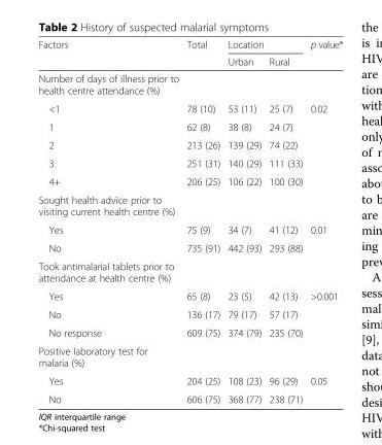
<table><thead><tr><td rowspan="2">Factors</td><td rowspan="2">Total</td><td colspan="2">Location</td><td rowspan="2">p value*</td></tr><tr><td>Urban</td><td>Rural</td></tr></thead><tbody><tr><td colspan="5">Number of days of illness prior to health centre attendance (%)</td></tr><tr><td>&lt;1</td><td>78 (10)</td><td>53 (11)</td><td>25 (7)</td><td rowspan="5">0.02</td></tr><tr><td>1</td><td>62 (8)</td><td>38 (8)</td><td>24 (7)</td></tr><tr><td>2</td><td>213 (26)</td><td>139 (29)</td><td>74 (22)</td></tr><tr><td>3</td><td>251 (31)</td><td>140 (29)</td><td>111 (33)</td></tr><tr><td>4+</td><td>206 (25)</td><td>106 (22)</td><td>100 (30)</td></tr><tr><td colspan="5">Sought health advice prior to visiting current health centre (%)</td></tr><tr><td>Yes</td><td>75 (9)</td><td>34 (7)</td><td>41 (12)</td><td rowspan="2">0.01</td></tr><tr><td>No</td><td>735 (91)</td><td>442 (93)</td><td>293 (88)</td></tr><tr><td colspan="5">Took antimalarial tablets prior to attendance at health centre (%)</td></tr><tr><td>Yes</td><td>65 (8)</td><td>23 (5)</td><td>42 (13)</td><td rowspan="3">&gt;0.001</td></tr><tr><td>No</td><td>136 (17)</td><td>79 (17)</td><td>57 (17)</td></tr><tr><td>No response</td><td>609 (75)</td><td>374 (79)</td><td>235 (70)</td></tr><tr><td colspan="5">Positive laboratory test for malaria (%)</td></tr><tr><td>Yes</td><td>204 (25)</td><td>108 (23)</td><td>96 (29)</td><td rowspan="2">0.05</td></tr><tr><td>No</td><td>606 (75)</td><td>368 (77)</td><td>238 (71)</td></tr></tbody></table>